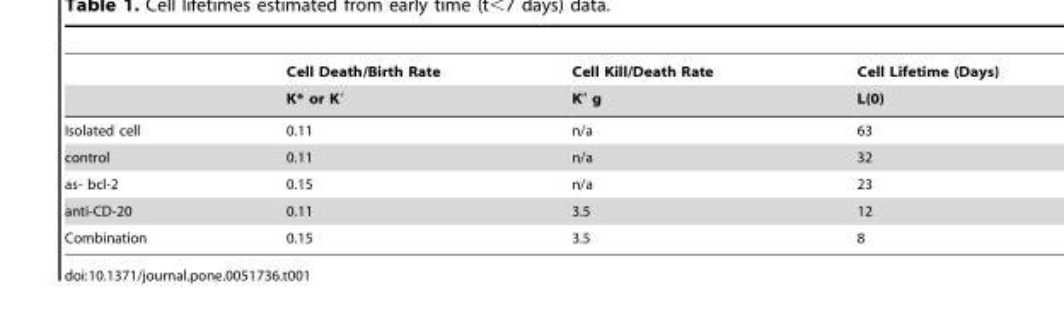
<table><thead><tr><td rowspan="2"></td><td rowspan="2">Cell Death/Birth Rate K* or K′</td><td rowspan="2">Cell Kill/Death Rate K″ g</td><td rowspan="2">Cell Lifetime (Days) L(0)</td></tr><tr></tr></thead><tbody><tr><td>Isolated cell</td><td>0.11</td><td>n/a</td><td>63</td></tr><tr><td>control</td><td>0.11</td><td>n/a</td><td>32</td></tr><tr><td>as- bcl-2</td><td>0.15</td><td>n/a</td><td>23</td></tr><tr><td>anti-CD-20</td><td>0.11</td><td>3.5</td><td>12</td></tr><tr><td>Combination</td><td>0.15</td><td>3.5</td><td>8</td></tr></tbody></table>